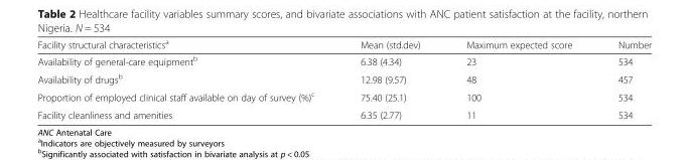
<table><thead><tr><td>Facility structural characteristics<sup>a</sup></td><td>Mean (std.dev)</td><td>Maximum expected score</td><td>Number</td></tr></thead><tbody><tr><td>Availability of general-care equipment<sup>b</sup></td><td>6.38 (4.34)</td><td>23</td><td>534</td></tr><tr><td>Availability of drugs<sup>b</sup></td><td>12.98 (9.57)</td><td>48</td><td>457</td></tr><tr><td>Proportion of employed clinical staff available on day of survey (%)<sup>c</sup></td><td>75.40 (25.1)</td><td>100</td><td>534</td></tr><tr><td>Facility cleanliness and amenities</td><td>6.35 (2.77)</td><td>11</td><td>534</td></tr></tbody></table>